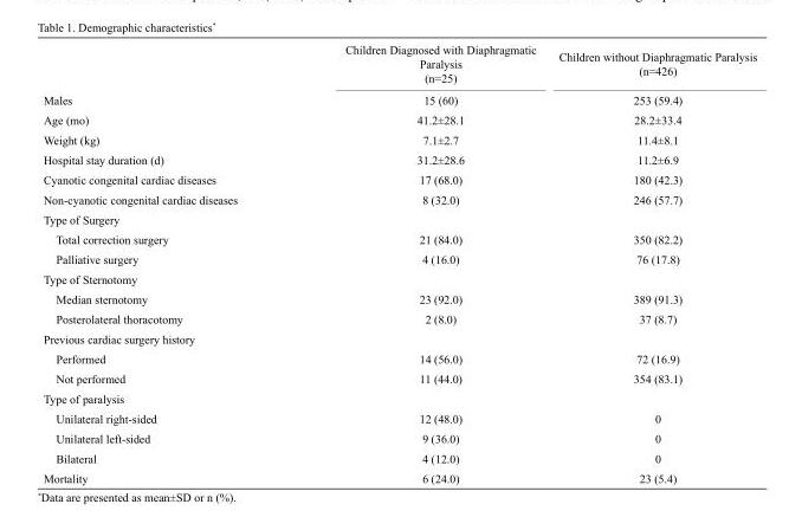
<table><thead><tr><td></td><td>Children Diagnosed with Diaphragmatic Paralysis (n=25)</td><td>Children without Diaphragmatic Paralysis (n=426)</td></tr></thead><tbody><tr><td>Males</td><td>15 (60)</td><td>253 (59.4)</td></tr><tr><td>Age (mo)</td><td>41.2±28.1</td><td>28.2±33.4</td></tr><tr><td>Weight (kg)</td><td>7.1±2.7</td><td>11.4±8.1</td></tr><tr><td>Hospital stay duration (d)</td><td>31.2±28.6</td><td>11.2±6.9</td></tr><tr><td>Cyanotic congenital cardiac diseases</td><td>17 (68.0)</td><td>180 (42.3)</td></tr><tr><td>Non-cyanotic congenital cardiac diseases</td><td>8 (32.0)</td><td>246 (57.7)</td></tr><tr><td colspan="3">Type of Surgery</td></tr><tr><td>Total correction surgery</td><td>21 (84.0)</td><td>350 (82.2)</td></tr><tr><td>Palliative surgery</td><td>4 (16.0)</td><td>76 (17.8)</td></tr><tr><td colspan="3">Type of Sternotomy</td></tr><tr><td>Median sternotomy</td><td>23 (92.0)</td><td>389 (91.3)</td></tr><tr><td>Posterolateral thoracotomy</td><td>2 (8.0)</td><td>37 (8.7)</td></tr><tr><td colspan="3">Previous cardiac surgery history</td></tr><tr><td>Performed</td><td>14 (56.0)</td><td>72 (16.9)</td></tr><tr><td>Not performed</td><td>11 (44.0)</td><td>354 (83.1)</td></tr><tr><td colspan="3">Type of paralysis</td></tr><tr><td>Unilateral right-sided</td><td>12 (48.0)</td><td>0</td></tr><tr><td>Unilateral left-sided</td><td>9 (36.0)</td><td>0</td></tr><tr><td>Bilateral</td><td>4 (12.0)</td><td>0</td></tr><tr><td>Mortality</td><td>6 (24.0)</td><td>23 (5.4)</td></tr></tbody></table>